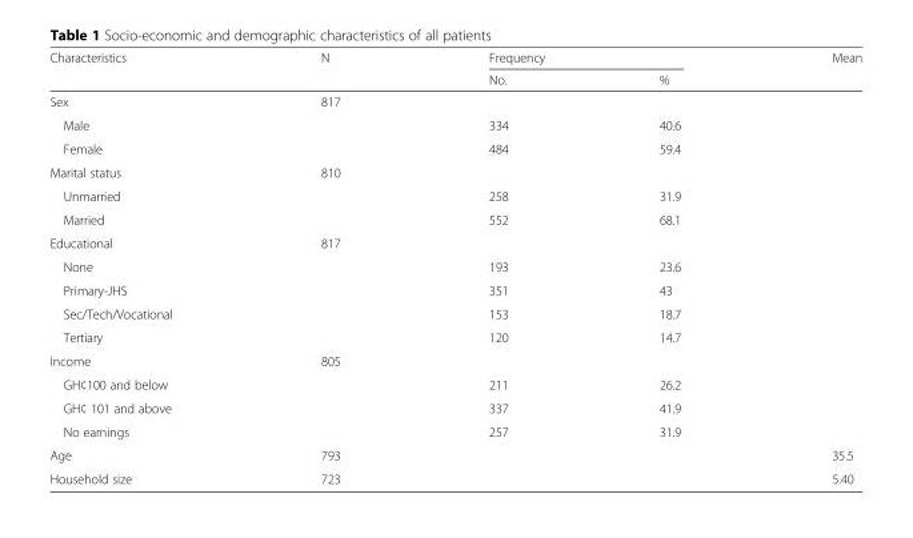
<table><thead><tr><td rowspan="2">Characteristics</td><td rowspan="2">N</td><td colspan="2">Frequency</td><td rowspan="2">Mean</td></tr><tr><td>No.</td><td>%</td></tr></thead><tbody><tr><td>Sex</td><td>817</td><td></td><td></td><td></td></tr><tr><td>Male</td><td></td><td>334</td><td>40.6</td><td></td></tr><tr><td>Female</td><td></td><td>484</td><td>59.4</td><td></td></tr><tr><td>Marital status</td><td>810</td><td></td><td></td><td></td></tr><tr><td>Unmarried</td><td></td><td>258</td><td>31.9</td><td></td></tr><tr><td>Married</td><td></td><td>552</td><td>68.1</td><td></td></tr><tr><td>Educational</td><td>817</td><td></td><td></td><td></td></tr><tr><td>None</td><td></td><td>193</td><td>23.6</td><td></td></tr><tr><td>Primary-JHS</td><td></td><td>351</td><td>43</td><td></td></tr><tr><td>Sec/Tech/Vocational</td><td></td><td>153</td><td>18.7</td><td></td></tr><tr><td>Tertiary</td><td></td><td>120</td><td>14.7</td><td></td></tr><tr><td>Income</td><td>805</td><td></td><td></td><td></td></tr><tr><td>GH¢100 and below</td><td></td><td>211</td><td>26.2</td><td></td></tr><tr><td>GH¢ 101 and above</td><td></td><td>337</td><td>41.9</td><td></td></tr><tr><td>No earnings</td><td></td><td>257</td><td>31.9</td><td></td></tr><tr><td>Age</td><td>793</td><td></td><td></td><td>35.5</td></tr><tr><td>Household size</td><td>723</td><td></td><td></td><td>5.40</td></tr></tbody></table>